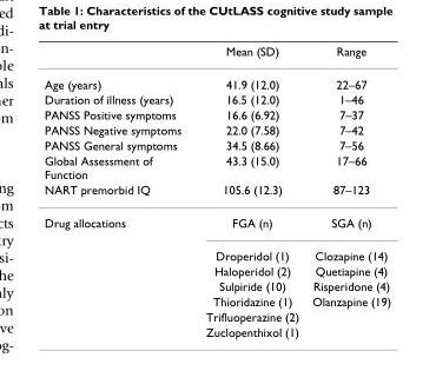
<table><thead><tr><td></td><td>Mean (SD)</td><td>Range</td></tr></thead><tbody><tr><td>Age (years)</td><td>41.9 (12.0)</td><td>22–67</td></tr><tr><td>Duration of illness (years)</td><td>16.5 (12.0)</td><td>1–46</td></tr><tr><td>PANSS Positive symptoms</td><td>16.6 (6.92)</td><td>7–37</td></tr><tr><td>PANSS Negative symptoms</td><td>22.0 (7.58)</td><td>7–42</td></tr><tr><td>PANSS General symptoms</td><td>34.5 (8.66)</td><td>7–56</td></tr><tr><td>Global Assessment of Function</td><td>43.3 (15.0)</td><td>17–66</td></tr><tr><td>NART premorbid IQ</td><td>105.6 (12.3)</td><td>87–123</td></tr><tr><td rowspan="7">Drug allocations</td><td>FGA (n)</td><td>SGA (n)</td></tr><tr><td>Droperidol (1)</td><td>Clozapine (14)</td></tr><tr><td>Haloperidol (2)</td><td>Quetiapine (4)</td></tr><tr><td>Sulpiride (10)</td><td>Risperidone (4)</td></tr><tr><td>Thioridazine (1)</td><td>Olanzapine (19)</td></tr><tr><td>Trifluoperazine (2)</td><td></td></tr><tr><td>Zuclopenthixol (1)</td><td></td></tr></tbody></table>